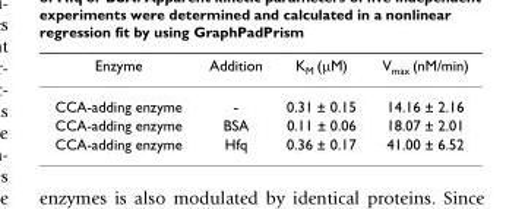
<table><thead><tr><td>Enzyme</td><td>Addition</td><td>K<sub>M</sub> (µM)</td><td>V<sub>max</sub> (nM/min)</td></tr></thead><tbody><tr><td>CCA-adding enzyme</td><td>-</td><td>0.31 ± 0.15</td><td>14.16 ± 2.16</td></tr><tr><td>CCA-adding enzyme</td><td>BSA</td><td>0.11 ± 0.06</td><td>18.07 ± 2.01</td></tr><tr><td>CCA-adding enzyme</td><td>Hfq</td><td>0.36 ± 0.17</td><td>41.00 ± 6.52</td></tr></tbody></table>